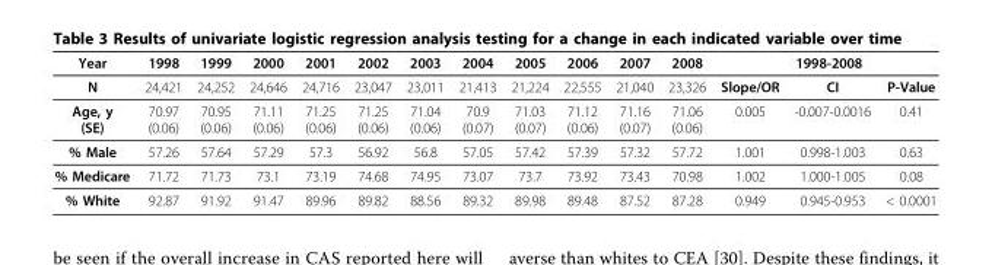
<table><thead><tr><td rowspan="2">Year N</td><td rowspan="2">1998 24,421</td><td rowspan="2">1999 24,252</td><td rowspan="2">2000 24,646</td><td rowspan="2">2001 24,716</td><td rowspan="2">2002 23,047</td><td rowspan="2">2003 23,011</td><td rowspan="2">2004 21,413</td><td rowspan="2">2005 21,224</td><td rowspan="2">2006 22,555</td><td rowspan="2">2007 21,040</td><td rowspan="2">2008 23,326</td><td colspan="3">1998-2008</td></tr><tr><td>Slope/OR</td><td>CI</td><td>P-Value</td></tr></thead><tbody><tr><td>Age, y (SE)</td><td>70.97 (0.06)</td><td>70.95 (0.06)</td><td>71.11 (0.06)</td><td>71.25 (0.06)</td><td>71.25 (0.06)</td><td>71.04 (0.06)</td><td>70.9 (0.07)</td><td>71.03 (0.07)</td><td>71.12 (0.06)</td><td>71.16 (0.07)</td><td>71.06 (0.06)</td><td>0.005</td><td>-0.007-0.0016</td><td>0.41</td></tr><tr><td>% Male</td><td>57.26</td><td>57.64</td><td>57.29</td><td>57.3</td><td>56.92</td><td>56.8</td><td>57.05</td><td>57.42</td><td>57.39</td><td>57.32</td><td>57.72</td><td>1.001</td><td>0.998-1.003</td><td>0.63</td></tr><tr><td>% Medicare</td><td>71.72</td><td>71.73</td><td>73.1</td><td>73.19</td><td>74.68</td><td>74.95</td><td>73.07</td><td>73.7</td><td>73.92</td><td>73.43</td><td>70.98</td><td>1.002</td><td>1.000-1.005</td><td>0.08</td></tr><tr><td>% White</td><td>92.87</td><td>91.92</td><td>91.47</td><td>89.96</td><td>89.82</td><td>88.56</td><td>89.32</td><td>89.98</td><td>89.48</td><td>87.52</td><td>87.28</td><td>0.949</td><td>0.945-0.953</td><td>&lt; 0.0001</td></tr></tbody></table>